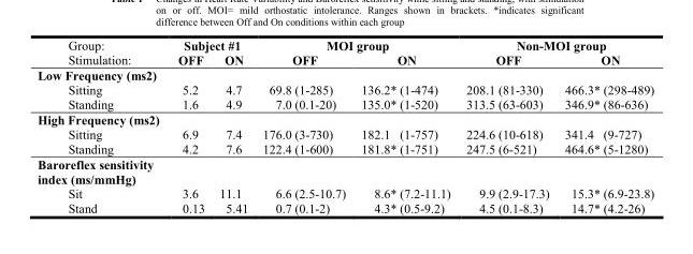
<table><thead><tr><td rowspan="2">Group: Stimulation:</td><td colspan="2">Subject #1</td><td colspan="2">MOI group</td><td colspan="2">Non-MOI group</td></tr><tr><td>OFF</td><td>ON</td><td>OFF</td><td>ON</td><td>OFF</td><td>ON</td></tr></thead><tbody><tr><td colspan="7">Low Frequency (ms2)</td></tr><tr><td>Sitting</td><td>5.2</td><td>4.7</td><td>69.8 (1-285)</td><td>136.2* (1-474)</td><td>208.1 (81-330)</td><td>466.3* (298-489)</td></tr><tr><td>Standing</td><td>1.6</td><td>4.9</td><td>7.0 (0.1-20)</td><td>135.0* (1-520)</td><td>313.5 (63-603)</td><td>346.9* (86-636)</td></tr><tr><td colspan="7">High Frequency (ms2)</td></tr><tr><td>Sitting</td><td>6.9</td><td>7.4</td><td>176.0 (3-730)</td><td>182.1 (1-757)</td><td>224.6 (10-618)</td><td>341.4 (9-727)</td></tr><tr><td>Standing</td><td>4.2</td><td>7.6</td><td>122.4 (1-600)</td><td>181.8* (1-751)</td><td>247.5 (6-521)</td><td>464.6* (5-1280)</td></tr><tr><td colspan="7">Baroreflex sensitivity index (ms/mmHg)</td></tr><tr><td>Sit</td><td>3.6</td><td>11.1</td><td>6.6 (2.5-10.7)</td><td>8.6* (7.2-11.1)</td><td>9.9 (2.9-17.3)</td><td>15.3* (6.9-23.8)</td></tr><tr><td>Stand</td><td>0.13</td><td>5.41</td><td>0.7 (0.1-2)</td><td>4.3* (0.5-9.2)</td><td>4.5 (0.1-8.3)</td><td>14.7* (4.2-26)</td></tr></tbody></table>